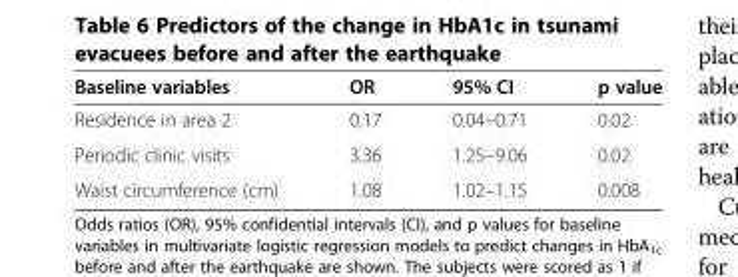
<table><thead><tr><td>Baseline variables</td><td>OR</td><td>95% CI</td><td>p value</td></tr></thead><tbody><tr><td>Residence in area 2</td><td>0.17</td><td>0.04–0.71</td><td>0.02</td></tr><tr><td>Periodic clinic visits</td><td>3.36</td><td>1.25–9.06</td><td>0.02</td></tr><tr><td>Waist circumference (cm)</td><td>1.08</td><td>1.02–1.15</td><td>0.008</td></tr></tbody></table>